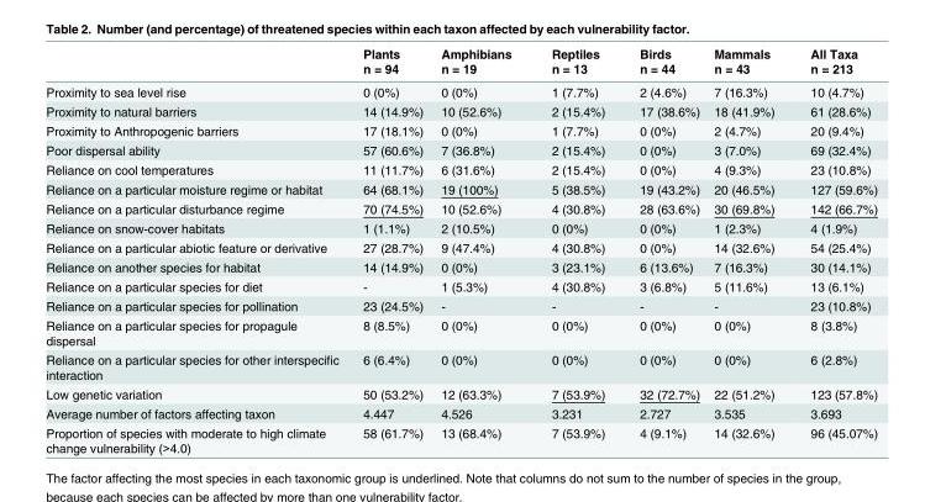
<table><thead><tr><td></td><td>Plants n = 94</td><td>Amphibians n = 19</td><td>Reptiles n = 13</td><td>Birds n = 44</td><td>Mammals n = 43</td><td>All Taxa n = 213</td></tr></thead><tbody><tr><td>Proximity to sea level rise</td><td>0 (0%)</td><td>0 (0%)</td><td>1 (7.7%)</td><td>2 (4.6%)</td><td>7 (16.3%)</td><td>10 (4.7%)</td></tr><tr><td>Proximity to natural barriers</td><td>14 (14.9%)</td><td>10 (52.6%)</td><td>2 (15.4%)</td><td>17 (38.6%)</td><td>18 (41.9%)</td><td>61 (28.6%)</td></tr><tr><td>Proximity to Anthropogenic barriers</td><td>17 (18.1%)</td><td>0 (0%)</td><td>1 (7.7%)</td><td>0 (0%)</td><td>2 (4.7%)</td><td>20 (9.4%)</td></tr><tr><td>Poor dispersal ability</td><td>57 (60.6%)</td><td>7 (36.8%)</td><td>2 (15.4%)</td><td>0 (0%)</td><td>3 (7.0%)</td><td>69 (32.4%)</td></tr><tr><td>Reliance on cool temperatures</td><td>11 (11.7%)</td><td>6 (31.6%)</td><td>2 (15.4%)</td><td>0 (0%)</td><td>4 (9.3%)</td><td>23 (10.8%)</td></tr><tr><td>Reliance on a particular moisture regime or habitat</td><td>64 (68.1%)</td><td>19 (100%)</td><td>5 (38.5%)</td><td>19 (43.2%)</td><td>20 (46.5%)</td><td>127 (59.6%)</td></tr><tr><td>Reliance on a particular disturbance regime</td><td>70 (74.5%)</td><td>10 (52.6%)</td><td>4 (30.8%)</td><td>28 (63.6%)</td><td>30 (69.8%)</td><td>142 (66.7%)</td></tr><tr><td>Reliance on snow-cover habitats</td><td>1 (1.1%)</td><td>2 (10.5%)</td><td>0 (0%)</td><td>0 (0%)</td><td>1 (2.3%)</td><td>4 (1.9%)</td></tr><tr><td>Reliance on a particular abiotic feature or derivative</td><td>27 (28.7%)</td><td>9 (47.4%)</td><td>4 (30.8%)</td><td>0 (0%)</td><td>14 (32.6%)</td><td>54 (25.4%)</td></tr><tr><td>Reliance on another species for habitat</td><td>14 (14.9%)</td><td>0 (0%)</td><td>3 (23.1%)</td><td>6 (13.6%)</td><td>7 (16.3%)</td><td>30 (14.1%)</td></tr><tr><td>Reliance on a particular species for diet</td><td>-</td><td>1 (5.3%)</td><td>4 (30.8%)</td><td>3 (6.8%)</td><td>5 (11.6%)</td><td>13 (6.1%)</td></tr><tr><td>Reliance on a particular species for pollination</td><td>23 (24.5%)</td><td>-</td><td>-</td><td>-</td><td>-</td><td>23 (10.8%)</td></tr><tr><td>Reliance on a particular species for propagule dispersal</td><td>8 (8.5%)</td><td>0 (0%)</td><td>0 (0%)</td><td>0 (0%)</td><td>0 (0%)</td><td>8 (3.8%)</td></tr><tr><td>Reliance on a particular species for other interspecific interaction</td><td>6 (6.4%)</td><td>0 (0%)</td><td>0 (0%)</td><td>0 (0%)</td><td>0 (0%)</td><td>6 (2.8%)</td></tr><tr><td>Low genetic variation</td><td>50 (53.2%)</td><td>12 (63.3%)</td><td>7 (53.9%)</td><td>32 (72.7%)</td><td>22 (51.2%)</td><td>123 (57.8%)</td></tr><tr><td>Average number of factors affecting taxon</td><td>4.447</td><td>4.526</td><td>3.231</td><td>2.727</td><td>3.535</td><td>3.693</td></tr><tr><td>Proportion of species with moderate to high climate change vulnerability (&gt;4.0)</td><td>58 (61.7%)</td><td>13 (68.4%)</td><td>7 (53.9%)</td><td>4 (9.1%)</td><td>14 (32.6%)</td><td>96 (45.07%)</td></tr></tbody></table>